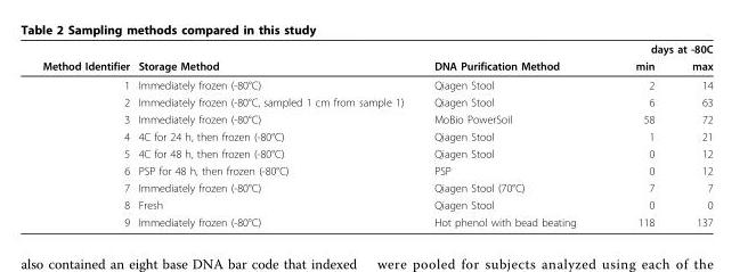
<table><thead><tr><td rowspan="2">Method Identifier</td><td rowspan="2">Storage Method</td><td rowspan="2">DNA Purification Method</td><td colspan="2">days at -80C</td></tr><tr><td>min</td><td>max</td></tr></thead><tbody><tr><td>1</td><td>Immediately frozen (-80°C)</td><td>Qiagen Stool</td><td>2</td><td>14</td></tr><tr><td>2</td><td>Immediately frozen (-80°C, sampled 1 cm from sample 1)</td><td>Qiagen Stool</td><td>6</td><td>63</td></tr><tr><td>3</td><td>Immediately frozen (-80°C)</td><td>MoBio PowerSoil</td><td>58</td><td>72</td></tr><tr><td>4</td><td>4C for 24 h, then frozen (-80°C)</td><td>Qiagen Stool</td><td>1</td><td>21</td></tr><tr><td>5</td><td>4C for 48 h, then frozen (-80°C)</td><td>Qiagen Stool</td><td>0</td><td>12</td></tr><tr><td>6</td><td>PSP for 48 h, then frozen (-80°C)</td><td>PSP</td><td>0</td><td>12</td></tr><tr><td>7</td><td>Immediately frozen (-80°C)</td><td>Qiagen Stool (70°C)</td><td>7</td><td>7</td></tr><tr><td>8</td><td>Fresh</td><td>Qiagen Stool</td><td>0</td><td>0</td></tr><tr><td>9</td><td>Immediately frozen (-80°C)</td><td>Hot phenol with bead beating</td><td>118</td><td>137</td></tr></tbody></table>